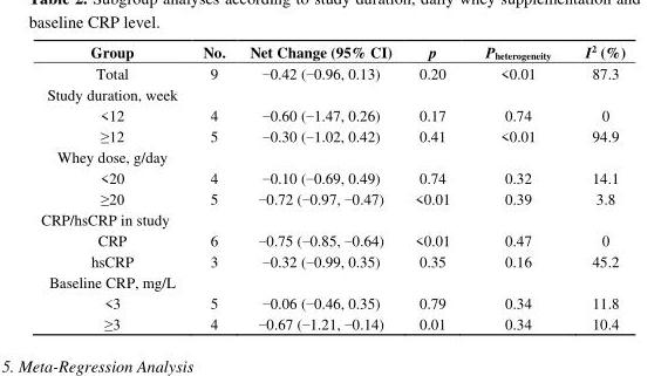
<table><thead><tr><td>Group</td><td>No.</td><td>Net Change (95% CI)</td><td>p</td><td>P<sub>heterogeneity</sub></td><td>I<sup>2</sup> (%)</td></tr></thead><tbody><tr><td>Total</td><td>9</td><td>−0.42 (−0.96, 0.13)</td><td>0.20</td><td>&lt;0.01</td><td>87.3</td></tr><tr><td colspan="6">Study duration, week</td></tr><tr><td>&lt;12</td><td>4</td><td>−0.60 (−1.47, 0.26)</td><td>0.17</td><td>0.74</td><td>0</td></tr><tr><td>≥12</td><td>5</td><td>−0.30 (−1.02, 0.42)</td><td>0.41</td><td>&lt;0.01</td><td>94.9</td></tr><tr><td colspan="6">Whey dose, g/day</td></tr><tr><td>&lt;20</td><td>4</td><td>−0.10 (−0.69, 0.49)</td><td>0.74</td><td>0.32</td><td>14.1</td></tr><tr><td>≥20</td><td>5</td><td>−0.72 (−0.97, −0.47)</td><td>&lt;0.01</td><td>0.39</td><td>3.8</td></tr><tr><td colspan="6">CRP/hsCRP in study</td></tr><tr><td>CRP</td><td>6</td><td>−0.75 (−0.85, −0.64)</td><td>&lt;0.01</td><td>0.47</td><td>0</td></tr><tr><td>hsCRP</td><td>3</td><td>−0.32 (−0.99, 0.35)</td><td>0.35</td><td>0.16</td><td>45.2</td></tr><tr><td colspan="6">Baseline CRP, mg/L</td></tr><tr><td>&lt;3</td><td>5</td><td>−0.06 (−0.46, 0.35)</td><td>0.79</td><td>0.34</td><td>11.8</td></tr><tr><td>≥3</td><td>4</td><td>−0.67 (−1.21, −0.14)</td><td>0.01</td><td>0.34</td><td>10.4</td></tr></tbody></table>